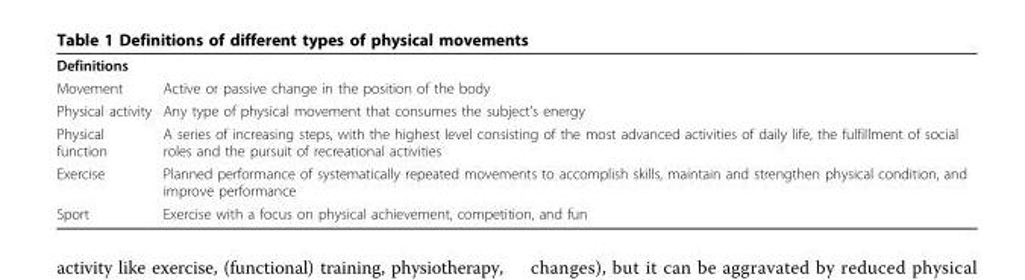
<table><tbody><tr><td colspan="2">Definitions</td></tr><tr><td>Movement</td><td>Active or passive change in the position of the body</td></tr><tr><td>Physical activity</td><td>Any type of physical movement that consumes the subject’s energy</td></tr><tr><td>Physical function</td><td>A series of increasing steps, with the highest level consisting of the most advanced activities of daily life, the fulfillment of social roles and the pursuit of recreational activities</td></tr><tr><td>Exercise</td><td>Planned performance of systematically repeated movements to accomplish skills, maintain and strengthen physical condition, and improve performance</td></tr><tr><td>Sport</td><td>Exercise with a focus on physical achievement, competition, and fun</td></tr></tbody></table>